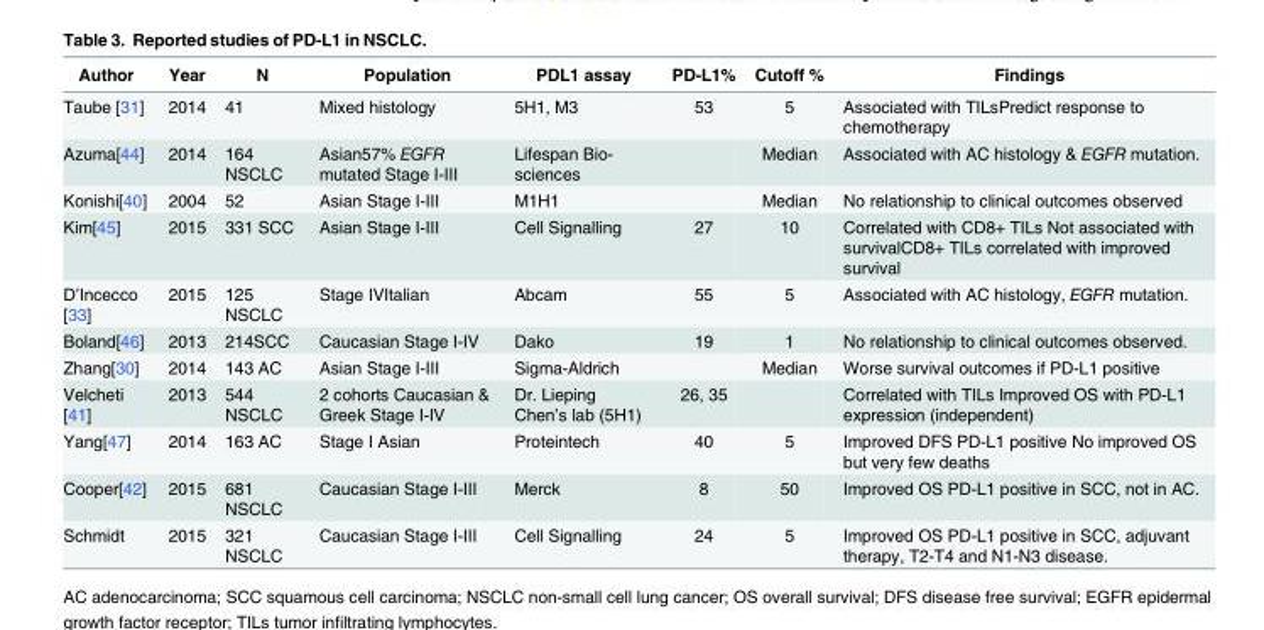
<table><thead><tr><td>Author</td><td>Year</td><td>N</td><td>Population</td><td>PDL1 assay</td><td>PD-L1%</td><td>Cutoff %</td><td>Findings</td></tr></thead><tbody><tr><td>Taube [31]</td><td>2014</td><td>41</td><td>Mixed histology</td><td>5H1, M3</td><td>53</td><td>5</td><td>Associated with TILsPredict response to chemotherapy</td></tr><tr><td>Azuma[44]</td><td>2014</td><td>164 NSCLC</td><td>Asian57% EGFR mutated Stage I-III</td><td>Lifespan Bio- sciences</td><td></td><td>Median</td><td>Associated with AC histology &amp; EGFR mutation.</td></tr><tr><td>Konishi[40]</td><td>2004</td><td>52</td><td>Asian Stage I-III</td><td>M1H1</td><td></td><td>Median</td><td>No relationship to clinical outcomes observed</td></tr><tr><td>Kim[45]</td><td>2015</td><td>331 SCC</td><td>Asian Stage I-III</td><td>Cell Signalling</td><td>27</td><td>10</td><td>Correlated with CD8+ TILs Not associated with survivalCD8+ TILs correlated with improved survival</td></tr><tr><td>D’Incecco [33]</td><td>2015</td><td>125 NSCLC</td><td>Stage IVItalian</td><td>Abcam</td><td>55</td><td>5</td><td>Associated with AC histology, EGFR mutation.</td></tr><tr><td>Boland[46]</td><td>2013</td><td>214SCC</td><td>Caucasian Stage I-IV</td><td>Dako</td><td>19</td><td>1</td><td>No relationship to clinical outcomes observed.</td></tr><tr><td>Zhang[30]</td><td>2014</td><td>143 AC</td><td>Asian Stage I-III</td><td>Sigma-Aldrich</td><td></td><td>Median</td><td>Worse survival outcomes if PD-L1 positive</td></tr><tr><td>Velcheti [41]</td><td>2013</td><td>544 NSCLC</td><td>2 cohorts Caucasian &amp; Greek Stage I-IV</td><td>Dr. Lieping Chen’s lab (5H1)</td><td>26, 35</td><td></td><td>Correlated with TILs Improved OS with PD-L1 expression (independent)</td></tr><tr><td>Yang[47]</td><td>2014</td><td>163 AC</td><td>Stage I Asian</td><td>Proteintech</td><td>40</td><td>5</td><td>Improved DFS PD-L1 positive No improved OS but very few deaths</td></tr><tr><td>Cooper[42]</td><td>2015</td><td>681 NSCLC</td><td>Caucasian Stage I-III</td><td>Merck</td><td>8</td><td>50</td><td>Improved OS PD-L1 positive in SCC, not in AC.</td></tr><tr><td>Schmidt</td><td>2015</td><td>321 NSCLC</td><td>Caucasian Stage I-III</td><td>Cell Signalling</td><td>24</td><td>5</td><td>Improved OS PD-L1 positive in SCC, adjuvant therapy, T2-T4 and N1-N3 disease.</td></tr></tbody></table>